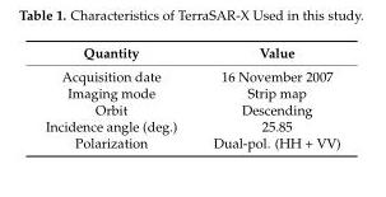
<table><thead><tr><td>Quantity</td><td>Value</td></tr></thead><tbody><tr><td>Acquisition date</td><td>16 November 2007</td></tr><tr><td>Imaging mode</td><td>Strip map</td></tr><tr><td>Orbit</td><td>Descending</td></tr><tr><td>Incidence angle (deg.)</td><td>25.85</td></tr><tr><td>Polarization</td><td>Dual-pol. (HH + VV)</td></tr></tbody></table>